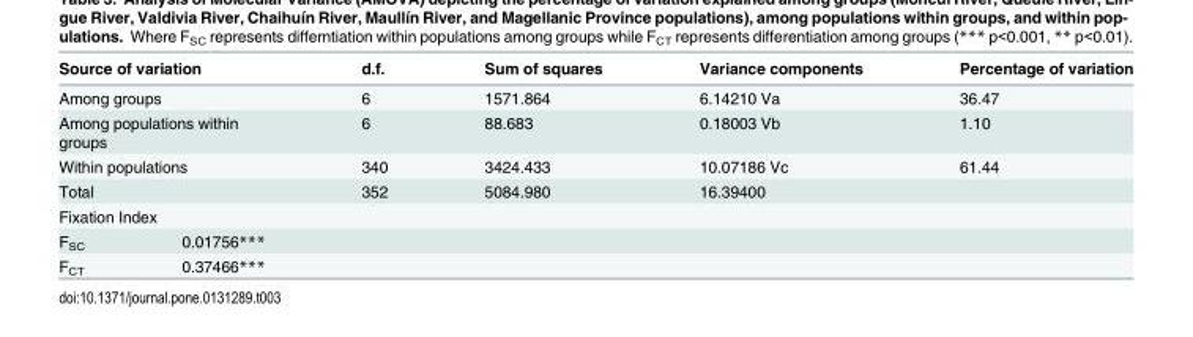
<table><thead><tr><td colspan="2">Source of variation</td><td>d.f.</td><td>Sum of squares</td><td>Variance components</td><td>Percentage of variation</td></tr></thead><tbody><tr><td colspan="2">Among groups</td><td>6</td><td>1571.864</td><td>6.14210 Va</td><td>36.47</td></tr><tr><td colspan="2">Among populations within groups</td><td>6</td><td>88.683</td><td>0.18003 Vb</td><td>1.10</td></tr><tr><td colspan="2">Within populations</td><td>340</td><td>3424.433</td><td>10.07186 Vc</td><td>61.44</td></tr><tr><td colspan="2">Total</td><td>352</td><td>5084.980</td><td>16.39400</td><td></td></tr><tr><td colspan="6">Fixation Index</td></tr><tr><td>F<sub>SC</sub></td><td>0.01756***</td><td></td><td></td><td></td><td></td></tr><tr><td>F<sub>CT</sub></td><td>0.37466***</td><td></td><td></td><td></td><td></td></tr></tbody></table>